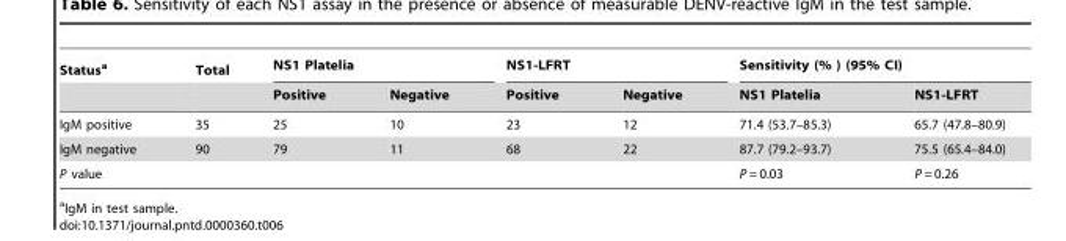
<table><thead><tr><td rowspan="2">Status<sup>a</sup></td><td rowspan="2">Total</td><td colspan="2">NS1 Platelia</td><td colspan="2">NS1-LFRT</td><td colspan="2">Sensitivity (% ) (95% CI)</td></tr><tr><td>Positive</td><td>Negative</td><td>Positive</td><td>Negative</td><td>NS1 Platelia</td><td>NS1-LFRT</td></tr></thead><tbody><tr><td>IgM positive</td><td>35</td><td>25</td><td>10</td><td>23</td><td>12</td><td>71.4 (53.7–85.3)</td><td>65.7 (47.8–80.9)</td></tr><tr><td>IgM negative</td><td>90</td><td>79</td><td>11</td><td>68</td><td>22</td><td>87.7 (79.2–93.7)</td><td>75.5 (65.4–84.0)</td></tr><tr><td>P value</td><td></td><td></td><td></td><td></td><td></td><td>P = 0.03</td><td>P = 0.26</td></tr></tbody></table>